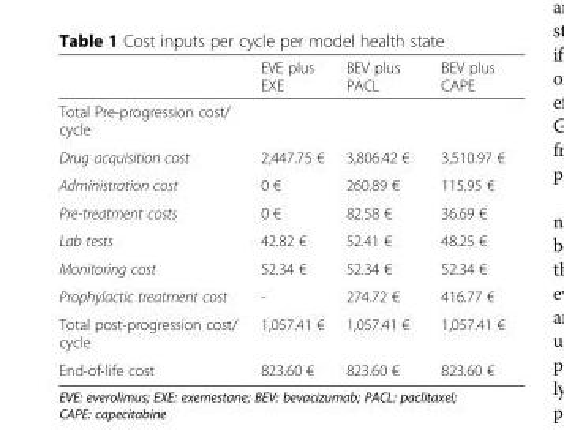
<table><thead><tr><td></td><td>EVE plus EXE</td><td>BEV plus PACL</td><td>BEV plus CAPE</td></tr></thead><tbody><tr><td colspan="4">Total Pre-progression cost/ cycle</td></tr><tr><td>Drug acquisition cost</td><td>2,447.75 €</td><td>3,806.42 €</td><td>3,510.97 €</td></tr><tr><td>Administration cost</td><td>0 €</td><td>260.89 €</td><td>115.95 €</td></tr><tr><td>Pre-treatment costs</td><td>0 €</td><td>82.58 €</td><td>36.69 €</td></tr><tr><td>Lab tests</td><td>42.82 €</td><td>52.41 €</td><td>48.25 €</td></tr><tr><td>Monitoring cost</td><td>52.34 €</td><td>52.34 €</td><td>52.34 €</td></tr><tr><td>Prophylactic treatment cost</td><td>-</td><td>274.72 €</td><td>416.77 €</td></tr><tr><td>Total post-progression cost/ cycle</td><td>1,057.41 €</td><td>1,057.41 €</td><td>1,057.41 €</td></tr><tr><td>End-of-life cost</td><td>823.60 €</td><td>823.60 €</td><td>823.60 €</td></tr></tbody></table>